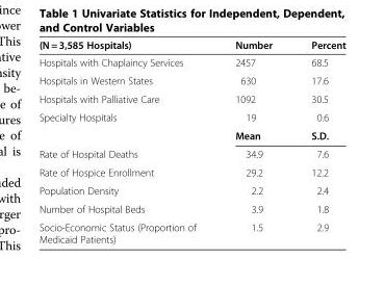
<table><thead><tr><td>(N = 3,585 Hospitals)</td><td>Number</td><td>Percent</td></tr></thead><tbody><tr><td>Hospitals with Chaplaincy Services</td><td>2457</td><td>68.5</td></tr><tr><td>Hospitals in Western States</td><td>630</td><td>17.6</td></tr><tr><td>Hospitals with Palliative Care</td><td>1092</td><td>30.5</td></tr><tr><td rowspan="2">Specialty Hospitals</td><td>19</td><td>0.6</td></tr><tr><td>Mean</td><td>S.D.</td></tr><tr><td>Rate of Hospital Deaths</td><td>34.9</td><td>7.6</td></tr><tr><td>Rate of Hospice Enrollment</td><td>29.2</td><td>12.2</td></tr><tr><td>Population Density</td><td>2.2</td><td>2.4</td></tr><tr><td>Number of Hospital Beds</td><td>3.9</td><td>1.8</td></tr><tr><td>Socio-Economic Status (Proportion of Medicaid Patients)</td><td>1.5</td><td>2.9</td></tr></tbody></table>